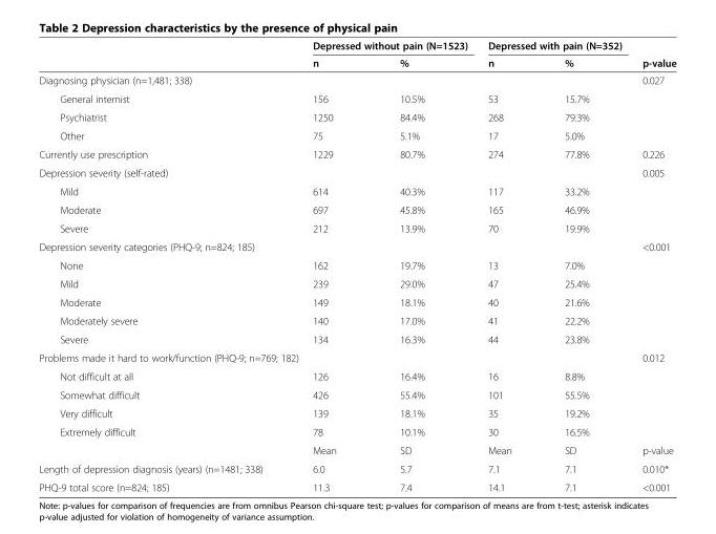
<table><thead><tr><td rowspan="2"></td><td colspan="2">Depressed without pain (N=1523)</td><td colspan="2">Depressed with pain (N=352)</td><td rowspan="2">p-value</td></tr><tr><td>n</td><td>%</td><td>n</td><td>%</td></tr></thead><tbody><tr><td>Diagnosing physician (n=1,481; 338)</td><td></td><td></td><td></td><td></td><td>0.027</td></tr><tr><td>General internist</td><td>156</td><td>10.5%</td><td>53</td><td>15.7%</td><td></td></tr><tr><td>Psychiatrist</td><td>1250</td><td>84.4%</td><td>268</td><td>79.3%</td><td></td></tr><tr><td>Other</td><td>75</td><td>5.1%</td><td>17</td><td>5.0%</td><td></td></tr><tr><td>Currently use prescription</td><td>1229</td><td>80.7%</td><td>274</td><td>77.8%</td><td>0.226</td></tr><tr><td>Depression severity (self-rated)</td><td></td><td></td><td></td><td></td><td>0.005</td></tr><tr><td>Mild</td><td>614</td><td>40.3%</td><td>117</td><td>33.2%</td><td></td></tr><tr><td>Moderate</td><td>697</td><td>45.8%</td><td>165</td><td>46.9%</td><td></td></tr><tr><td>Severe</td><td>212</td><td>13.9%</td><td>70</td><td>19.9%</td><td></td></tr><tr><td>Depression severity categories (PHQ-9; n=824; 185)</td><td></td><td></td><td></td><td></td><td>&lt;0.001</td></tr><tr><td>None</td><td>162</td><td>19.7%</td><td>13</td><td>7.0%</td><td></td></tr><tr><td>Mild</td><td>239</td><td>29.0%</td><td>47</td><td>25.4%</td><td></td></tr><tr><td>Moderate</td><td>149</td><td>18.1%</td><td>40</td><td>21.6%</td><td></td></tr><tr><td>Moderately severe</td><td>140</td><td>17.0%</td><td>41</td><td>22.2%</td><td></td></tr><tr><td>Severe</td><td>134</td><td>16.3%</td><td>44</td><td>23.8%</td><td></td></tr><tr><td>Problems made it hard to work/function (PHQ-9; n=769; 182)</td><td></td><td></td><td></td><td></td><td>0.012</td></tr><tr><td>Not difficult at all</td><td>126</td><td>16.4%</td><td>16</td><td>8.8%</td><td></td></tr><tr><td>Somewhat difficult</td><td>426</td><td>55.4%</td><td>101</td><td>55.5%</td><td></td></tr><tr><td>Very difficult</td><td>139</td><td>18.1%</td><td>35</td><td>19.2%</td><td></td></tr><tr><td rowspan="2">Extremely difficult</td><td>78</td><td>10.1%</td><td>30</td><td>16.5%</td><td></td></tr><tr><td>Mean</td><td>SD</td><td>Mean</td><td>SD</td><td>p-value</td></tr><tr><td>Length of depression diagnosis (years) (n=1481; 338)</td><td>6.0</td><td>5.7</td><td>7.1</td><td>7.1</td><td>0.010*</td></tr><tr><td>PHQ-9 total score (n=824; 185)</td><td>11.3</td><td>7.4</td><td>14.1</td><td>7.1</td><td>&lt;0.001</td></tr></tbody></table>